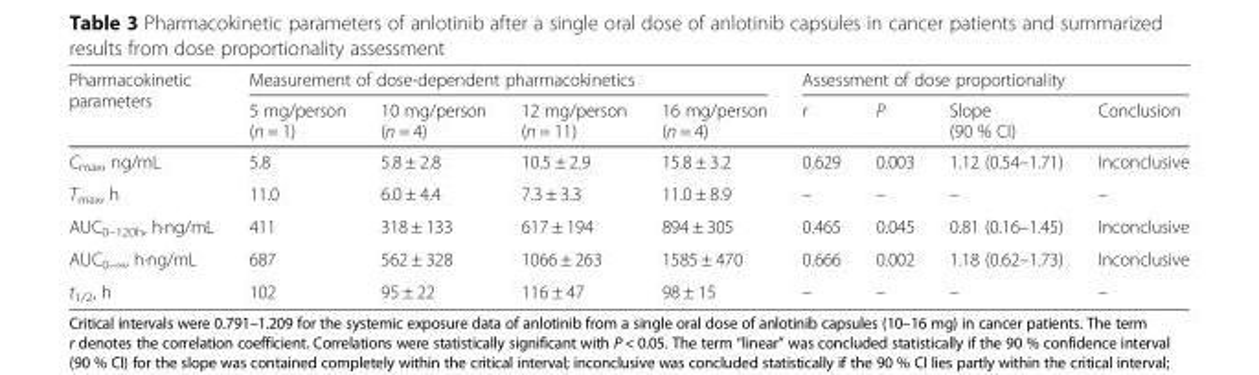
<table><thead><tr><td rowspan="2">Pharmacokinetic parameters</td><td colspan="4">Measurement of dose-dependent pharmacokinetics</td><td colspan="4">Assessment of dose proportionality</td></tr><tr><td>5 mg/person (n = 1)</td><td>10 mg/person (n = 4)</td><td>12 mg/person (n = 11)</td><td>16 mg/person (n = 4)</td><td>r</td><td>P</td><td>Slope (90 % CI)</td><td>Conclusion</td></tr></thead><tbody><tr><td>C<sub>max</sub>, ng/mL</td><td>5.8</td><td>5.8 ± 2.8</td><td>10.5 ± 2.9</td><td>15.8 ± 3.2</td><td>0.629</td><td>0.003</td><td>1.12 (0.54–1.71)</td><td>Inconclusive</td></tr><tr><td>T<sub>max</sub>, h</td><td>11.0</td><td>6.0 ± 4.4</td><td>7.3 ± 3.3</td><td>11.0 ± 8.9</td><td>–</td><td>–</td><td>–</td><td>–</td></tr><tr><td>AUC<sub>0–120h</sub>, h·ng/mL</td><td>411</td><td>318 ± 133</td><td>617 ± 194</td><td>894 ± 305</td><td>0.465</td><td>0.045</td><td>0.81 (0.16–1.45)</td><td>Inconclusive</td></tr><tr><td>AUC<sub>0–∞</sub>, h·ng/mL</td><td>687</td><td>562 ± 328</td><td>1066 ± 263</td><td>1585 ± 470</td><td>0.666</td><td>0.002</td><td>1.18 (0.62–1.73)</td><td>Inconclusive</td></tr><tr><td>t<sub>1/2</sub>, h</td><td>102</td><td>95 ± 22</td><td>116 ± 47</td><td>98 ± 15</td><td>–</td><td>–</td><td>–</td><td>–</td></tr></tbody></table>